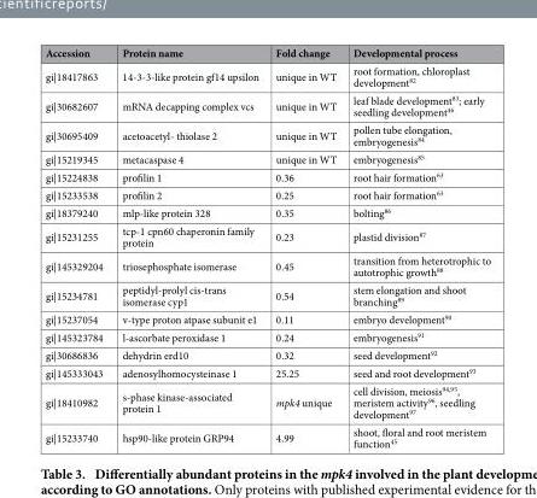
<table><thead><tr><td>Accession</td><td>Protein name</td><td>Fold change</td><td>Developmental process</td></tr></thead><tbody><tr><td>gi|18417863</td><td>14-3-3-like protein gf14 upsilon</td><td>unique in WT</td><td>root formation, chloroplast development<sup>82</sup></td></tr><tr><td>gi|30682607</td><td>mRNA decapping complex vcs</td><td>unique in WT</td><td>leaf blade development<sup>83</sup>; early seedling development<sup>46</sup></td></tr><tr><td>gi|30695409</td><td>acetoacetyl- thiolase 2</td><td>unique in WT</td><td>pollen tube elongation, embryogenesis<sup>84</sup></td></tr><tr><td>gi|15219345</td><td>metacaspase 4</td><td>unique in WT</td><td>embryogenesis<sup>85</sup></td></tr><tr><td>gi|15224838</td><td>profilin 1</td><td>0.36</td><td>root hair formation<sup>63</sup></td></tr><tr><td>gi|15233538</td><td>profilin 2</td><td>0.25</td><td>root hair formation<sup>63</sup></td></tr><tr><td>gi|18379240</td><td>mlp-like protein 328</td><td>0.35</td><td>bolting<sup>86</sup></td></tr><tr><td>gi|15231255</td><td>tcp-1 cpn60 chaperonin family protein</td><td>0.23</td><td>plastid division<sup>87</sup></td></tr><tr><td>gi|145329204</td><td>triosephosphate isomerase</td><td>0.45</td><td>transition from heterotrophic to autotrophic growth<sup>88</sup></td></tr><tr><td>gi|15234781</td><td>peptidyl-prolyl cis-trans isomerase cyp1</td><td>0.54</td><td>stem elongation and shoot branching<sup>89</sup></td></tr><tr><td>gi|15237054</td><td>v-type proton atpase subunit e1</td><td>0.11</td><td>embryo development<sup>90</sup></td></tr><tr><td>gi|145323784</td><td>l-ascorbate peroxidase 1</td><td>0.24</td><td>embryogenesis<sup>91</sup></td></tr><tr><td>gi|30686836</td><td>dehydrin erd10</td><td>0.32</td><td>seed development<sup>92</sup></td></tr><tr><td>gi|145333043</td><td>adenosylhomocysteinase 1</td><td>25.25</td><td>seed and root development<sup>93</sup></td></tr><tr><td>gi|18410982</td><td>s-phase kinase-associated protein 1</td><td>mpk4 unique</td><td>cell division, meiosis<sup>94</sup>,<sup>95</sup>, meristem activity<sup>96</sup>, seedling development<sup>97</sup></td></tr><tr><td>gi|15233740</td><td>hsp90-like protein GRP94</td><td>4.99</td><td>shoot, floral and root meristem function<sup>45</sup></td></tr></tbody></table>